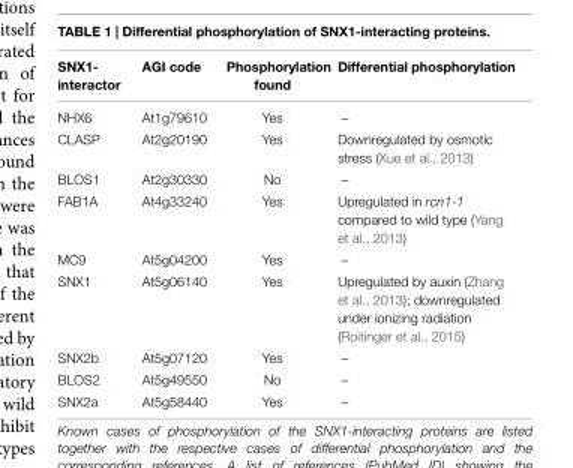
<table><thead><tr><td>SNX1- interactor</td><td>AGI code</td><td>Phosphorylation found</td><td>Differential phosphorylation</td></tr></thead><tbody><tr><td>NHX6</td><td>At1g79610</td><td>Yes</td><td>–</td></tr><tr><td>CLASP</td><td>At2g20190</td><td>Yes</td><td>Downregulated by osmotic stress (Xue et al., 2013)</td></tr><tr><td>BLOS1</td><td>At2g30330</td><td>No</td><td>–</td></tr><tr><td>FAB1A</td><td>At4g33240</td><td>Yes</td><td>Upregulated in rcn1-1 compared to wild type (Yang et al., 2013)</td></tr><tr><td>MC9</td><td>At5g04200</td><td>Yes</td><td>–</td></tr><tr><td>SNX1</td><td>At5g06140</td><td>Yes</td><td>Upregulated by auxin (Zhang et al., 2013); downregulated under ionizing radiation (Roitinger et al., 2015)</td></tr><tr><td>SNX2b</td><td>At5g07120</td><td>Yes</td><td>–</td></tr><tr><td>BLOS2</td><td>At5g49550</td><td>No</td><td>–</td></tr><tr><td>SNX2a</td><td>At5g58440</td><td>Yes</td><td>–</td></tr></tbody></table>